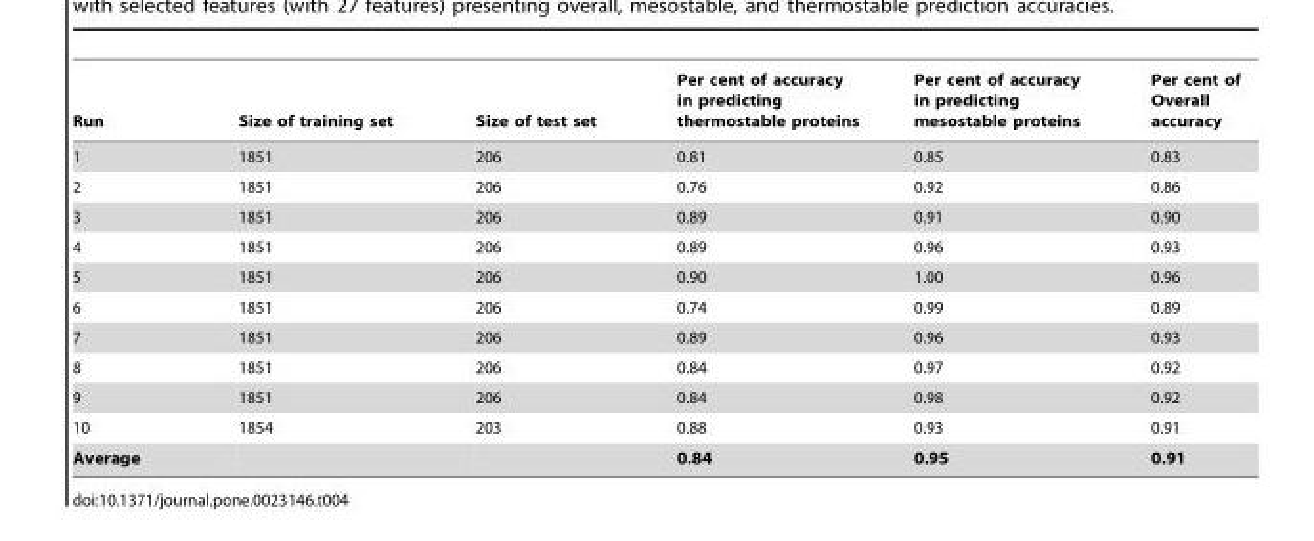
<table><thead><tr><td>Run</td><td>Size of training set</td><td>Size of test set</td><td>Per cent of accuracy in predicting thermostable proteins</td><td>Per cent of accuracy in predicting mesostable proteins</td><td>Per cent of Overall accuracy</td></tr></thead><tbody><tr><td>1</td><td>1851</td><td>206</td><td>0.81</td><td>0.85</td><td>0.83</td></tr><tr><td>2</td><td>1851</td><td>206</td><td>0.76</td><td>0.92</td><td>0.86</td></tr><tr><td>3</td><td>1851</td><td>206</td><td>0.89</td><td>0.91</td><td>0.90</td></tr><tr><td>4</td><td>1851</td><td>206</td><td>0.89</td><td>0.96</td><td>0.93</td></tr><tr><td>5</td><td>1851</td><td>206</td><td>0.90</td><td>1.00</td><td>0.96</td></tr><tr><td>6</td><td>1851</td><td>206</td><td>0.74</td><td>0.99</td><td>0.89</td></tr><tr><td>7</td><td>1851</td><td>206</td><td>0.89</td><td>0.96</td><td>0.93</td></tr><tr><td>8</td><td>1851</td><td>206</td><td>0.84</td><td>0.97</td><td>0.92</td></tr><tr><td>9</td><td>1851</td><td>206</td><td>0.84</td><td>0.98</td><td>0.92</td></tr><tr><td>10</td><td>1854</td><td>203</td><td>0.88</td><td>0.93</td><td>0.91</td></tr><tr><td>Average</td><td></td><td></td><td>0.84</td><td>0.95</td><td>0.91</td></tr></tbody></table>